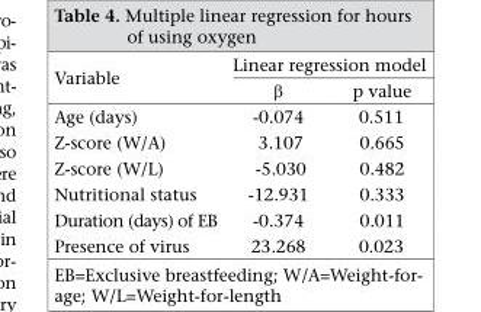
<table><thead><tr><td rowspan="2">Variable</td><td colspan="2">Linear regression model</td></tr><tr><td>β</td><td>p value</td></tr></thead><tbody><tr><td>Age (days)</td><td>-0.074</td><td>0.511</td></tr><tr><td>Z-score (W/A)</td><td>3.107</td><td>0.665</td></tr><tr><td>Z-score (W/L)</td><td>-5.030</td><td>0.482</td></tr><tr><td>Nutritional status</td><td>-12.931</td><td>0.333</td></tr><tr><td>Duration (days) of EB</td><td>-0.374</td><td>0.011</td></tr><tr><td>Presence of virus</td><td>23.268</td><td>0.023</td></tr></tbody></table>